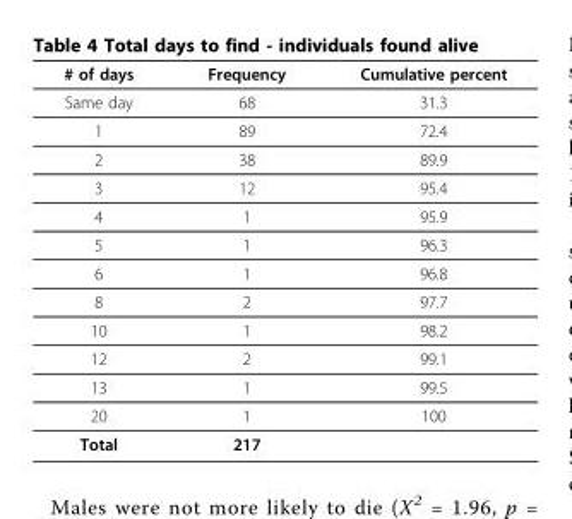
<table><thead><tr><td># of days</td><td>Frequency</td><td>Cumulative percent</td></tr></thead><tbody><tr><td>Same day</td><td>68</td><td>31.3</td></tr><tr><td>1</td><td>89</td><td>72.4</td></tr><tr><td>2</td><td>38</td><td>89.9</td></tr><tr><td>3</td><td>12</td><td>95.4</td></tr><tr><td>4</td><td>1</td><td>95.9</td></tr><tr><td>5</td><td>1</td><td>96.3</td></tr><tr><td>6</td><td>1</td><td>96.8</td></tr><tr><td>8</td><td>2</td><td>97.7</td></tr><tr><td>10</td><td>1</td><td>98.2</td></tr><tr><td>12</td><td>2</td><td>99.1</td></tr><tr><td>13</td><td>1</td><td>99.5</td></tr><tr><td>20</td><td>1</td><td>100</td></tr><tr><td>Total</td><td>217</td><td></td></tr></tbody></table>